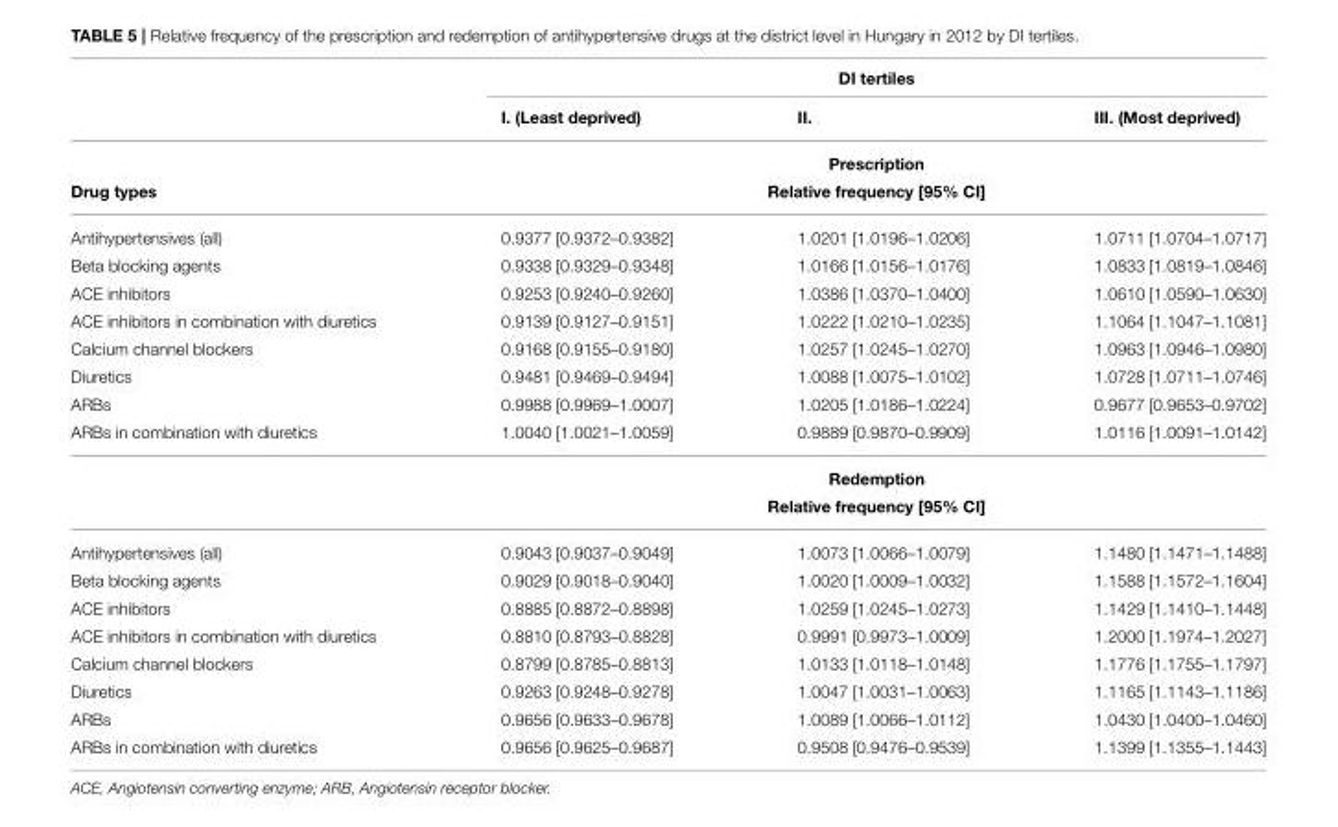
<table><thead><tr><td rowspan="2"></td><td colspan="3">DI tertiles</td></tr><tr><td>I. (Least deprived)</td><td>II.</td><td>III. (Most deprived)</td></tr></thead><tbody><tr><td></td><td colspan="3">Prescription</td></tr><tr><td>Drug types</td><td colspan="3">Relative frequency [95% CI]</td></tr><tr><td>Antihypertensives (all)</td><td>0.9377 [0.9372–0.9382]</td><td>1.0201 [1.0196–1.0206]</td><td>1.0711 [1.0704–1.0717]</td></tr><tr><td>Beta blocking agents</td><td>0.9338 [0.9329–0.9348]</td><td>1.0166 [1.0156–1.0176]</td><td>1.0833 [1.0819–1.0846]</td></tr><tr><td>ACE inhibitors</td><td>0.9253 [0.9240–0.9260]</td><td>1.0386 [1.0370–1.0400]</td><td>1.0610 [1.0590–1.0630]</td></tr><tr><td>ACE inhibitors in combination with diuretics</td><td>0.9139 [0.9127–0.9151]</td><td>1.0222 [1.0210–1.0235]</td><td>1.1064 [1.1047–1.1081]</td></tr><tr><td>Calcium channel blockers</td><td>0.9168 [0.9155–0.9180]</td><td>1.0257 [1.0245–1.0270]</td><td>1.0963 [1.0946–1.0980]</td></tr><tr><td>Diuretics</td><td>0.9481 [0.9469–0.9494]</td><td>1.0088 [1.0075–1.0102]</td><td>1.0728 [1.0711–1.0746]</td></tr><tr><td>ARBs</td><td>0.9988 [0.9969–1.0007]</td><td>1.0205 [1.0186–1.0224]</td><td>0.9677 [0.9653–0.9702]</td></tr><tr><td rowspan="3">ARBs in combination with diuretics</td><td>1.0040 [1.0021–1.0059]</td><td>0.9889 [0.9870–0.9909]</td><td>1.0116 [1.0091–1.0142]</td></tr><tr><td colspan="3">Redemption</td></tr><tr><td colspan="3">Relative frequency [95% CI]</td></tr><tr><td>Antihypertensives (all)</td><td>0.9043 [0.9037–0.9049]</td><td>1.0073 [1.0066–1.0079]</td><td>1.1480 [1.1471–1.1488]</td></tr><tr><td>Beta blocking agents</td><td>0.9029 [0.9018–0.9040]</td><td>1.0020 [1.0009–1.0032]</td><td>1.1588 [1.1572–1.1604]</td></tr><tr><td>ACE inhibitors</td><td>0.8885 [0.8872–0.8898]</td><td>1.0259 [1.0245–1.0273]</td><td>1.1429 [1.1410–1.1448]</td></tr><tr><td>ACE inhibitors in combination with diuretics</td><td>0.8810 [0.8793–0.8828]</td><td>0.9991 [0.9973–1.0009]</td><td>1.2000 [1.1974–1.2027]</td></tr><tr><td>Calcium channel blockers</td><td>0.8799 [0.8785–0.8813]</td><td>1.0133 [1.0118–1.0148]</td><td>1.1776 [1.1755–1.1797]</td></tr><tr><td>Diuretics</td><td>0.9263 [0.9248–0.9278]</td><td>1.0047 [1.0031–1.0063]</td><td>1.1165 [1.1143–1.1186]</td></tr><tr><td>ARBs</td><td>0.9656 [0.9633–0.9678]</td><td>1.0089 [1.0066–1.0112]</td><td>1.0430 [1.0400–1.0460]</td></tr><tr><td>ARBs in combination with diuretics</td><td>0.9656 [0.9625–0.9687]</td><td>0.9508 [0.9476–0.9539]</td><td>1.1399 [1.1355–1.1443]</td></tr></tbody></table>